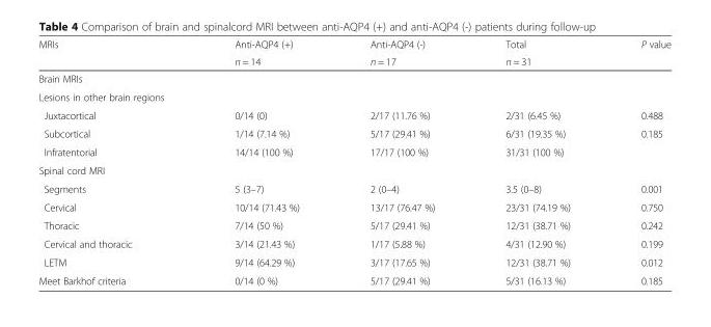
<table><thead><tr><td rowspan="2">MRIs</td><td rowspan="2">Anti-AQP4 (+) n = 14</td><td rowspan="2">Anti-AQP4 (-) n = 17</td><td rowspan="2">Total n = 31</td><td rowspan="2">P value</td></tr><tr></tr></thead><tbody><tr><td colspan="5">Brain MRIs</td></tr><tr><td colspan="5">Lesions in other brain regions</td></tr><tr><td>Juxtacortical</td><td>0/14 (0)</td><td>2/17 (11.76 %)</td><td>2/31 (6.45 %)</td><td>0.488</td></tr><tr><td>Subcortical</td><td>1/14 (7.14 %)</td><td>5/17 (29.41 %)</td><td>6/31 (19.35 %)</td><td>0.185</td></tr><tr><td>Infratentorial</td><td>14/14 (100 %)</td><td>17/17 (100 %)</td><td>31/31 (100 %)</td><td></td></tr><tr><td colspan="5">Spinal cord MRI</td></tr><tr><td>Segments</td><td>5 (3–7)</td><td>2 (0–4)</td><td>3.5 (0–8)</td><td>0.001</td></tr><tr><td>Cervical</td><td>10/14 (71.43 %)</td><td>13/17 (76.47 %)</td><td>23/31 (74.19 %)</td><td>0.750</td></tr><tr><td>Thoracic</td><td>7/14 (50 %)</td><td>5/17 (29.41 %)</td><td>12/31 (38.71 %)</td><td>0.242</td></tr><tr><td>Cervical and thoracic</td><td>3/14 (21.43 %)</td><td>1/17 (5.88 %)</td><td>4/31 (12.90 %)</td><td>0.199</td></tr><tr><td>LETM</td><td>9/14 (64.29 %)</td><td>3/17 (17.65 %)</td><td>12/31 (38.71 %)</td><td>0.012</td></tr><tr><td>Meet Barkhof criteria</td><td>0/14 (0 %)</td><td>5/17 (29.41 %)</td><td>5/31 (16.13 %)</td><td>0.185</td></tr></tbody></table>